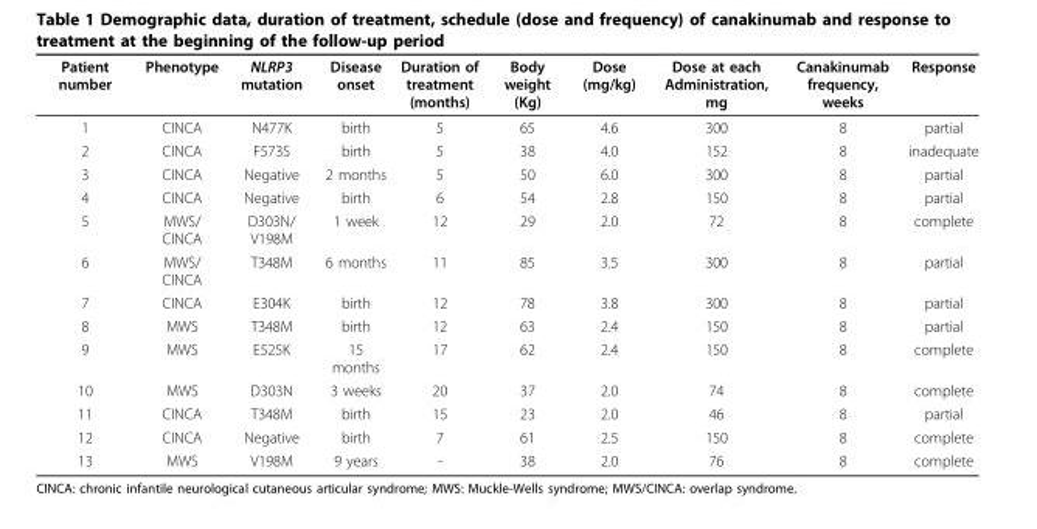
<table><thead><tr><td>Patient number</td><td>Phenotype</td><td>NLRP3 mutation</td><td>Disease onset</td><td>Duration of treatment (months)</td><td>Body weight (Kg)</td><td>Dose (mg/kg)</td><td>Dose at each Administration, mg</td><td>Canakinumab frequency, weeks</td><td>Response</td></tr></thead><tbody><tr><td>1</td><td>CINCA</td><td>N477K</td><td>birth</td><td>5</td><td>65</td><td>4.6</td><td>300</td><td>8</td><td>partial</td></tr><tr><td>2</td><td>CINCA</td><td>F573S</td><td>birth</td><td>5</td><td>38</td><td>4.0</td><td>152</td><td>8</td><td>inadequate</td></tr><tr><td>3</td><td>CINCA</td><td>Negative</td><td>2 months</td><td>5</td><td>50</td><td>6.0</td><td>300</td><td>8</td><td>partial</td></tr><tr><td>4</td><td>CINCA</td><td>Negative</td><td>birth</td><td>6</td><td>54</td><td>2.8</td><td>150</td><td>8</td><td>partial</td></tr><tr><td>5</td><td>MWS/ CINCA</td><td>D303N/ V198M</td><td>1 week</td><td>12</td><td>29</td><td>2.0</td><td>72</td><td>8</td><td>complete</td></tr><tr><td>6</td><td>MWS/ CINCA</td><td>T348M</td><td>6 months</td><td>11</td><td>85</td><td>3.5</td><td>300</td><td>8</td><td>partial</td></tr><tr><td>7</td><td>CINCA</td><td>E304K</td><td>birth</td><td>12</td><td>78</td><td>3.8</td><td>300</td><td>8</td><td>partial</td></tr><tr><td>8</td><td>MWS</td><td>T348M</td><td>birth</td><td>12</td><td>63</td><td>2.4</td><td>150</td><td>8</td><td>partial</td></tr><tr><td>9</td><td>MWS</td><td>E525K</td><td>15 months</td><td>17</td><td>62</td><td>2.4</td><td>150</td><td>8</td><td>complete</td></tr><tr><td>10</td><td>MWS</td><td>D303N</td><td>3 weeks</td><td>20</td><td>37</td><td>2.0</td><td>74</td><td>8</td><td>complete</td></tr><tr><td>11</td><td>CINCA</td><td>T348M</td><td>birth</td><td>15</td><td>23</td><td>2.0</td><td>46</td><td>8</td><td>partial</td></tr><tr><td>12</td><td>CINCA</td><td>Negative</td><td>birth</td><td>7</td><td>61</td><td>2.5</td><td>150</td><td>8</td><td>complete</td></tr><tr><td>13</td><td>MWS</td><td>V198M</td><td>9 years</td><td>-</td><td>38</td><td>2.0</td><td>76</td><td>8</td><td>complete</td></tr></tbody></table>